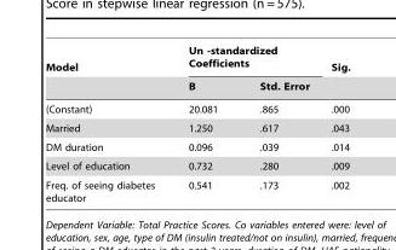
<table><thead><tr><td rowspan="2">Model</td><td colspan="2">Un -standardized Coefficients</td><td rowspan="2">Sig.</td></tr><tr><td>B</td><td>Std. Error</td></tr></thead><tbody><tr><td>(Constant)</td><td>20.081</td><td>.865</td><td>.000</td></tr><tr><td>Married</td><td>1.250</td><td>.617</td><td>.043</td></tr><tr><td>DM duration</td><td>0.096</td><td>.039</td><td>.014</td></tr><tr><td>Level of education</td><td>0.732</td><td>.280</td><td>.009</td></tr><tr><td>Freq. of seeing diabetes educator</td><td>0.541</td><td>.173</td><td>.002</td></tr></tbody></table>